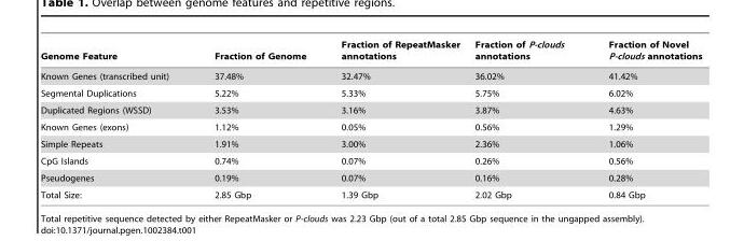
<table><thead><tr><td>Genome Feature</td><td>Fraction of Genome</td><td>Fraction of RepeatMasker annotations</td><td>Fraction of P-clouds annotations</td><td>Fraction of Novel P-clouds annotations</td></tr></thead><tbody><tr><td>Known Genes (transcribed unit)</td><td>37.48%</td><td>32.47%</td><td>36.02%</td><td>41.42%</td></tr><tr><td>Segmental Duplications</td><td>5.22%</td><td>5.33%</td><td>5.75%</td><td>6.02%</td></tr><tr><td>Duplicated Regions (WSSD)</td><td>3.53%</td><td>3.16%</td><td>3.87%</td><td>4.63%</td></tr><tr><td>Known Genes (exons)</td><td>1.12%</td><td>0.05%</td><td>0.56%</td><td>1.29%</td></tr><tr><td>Simple Repeats</td><td>1.91%</td><td>3.00%</td><td>2.36%</td><td>1.06%</td></tr><tr><td>CpG Islands</td><td>0.74%</td><td>0.07%</td><td>0.26%</td><td>0.56%</td></tr><tr><td>Pseudogenes</td><td>0.19%</td><td>0.07%</td><td>0.16%</td><td>0.28%</td></tr><tr><td>Total Size:</td><td>2.85 Gbp</td><td>1.39 Gbp</td><td>2.02 Gbp</td><td>0.84 Gbp</td></tr></tbody></table>